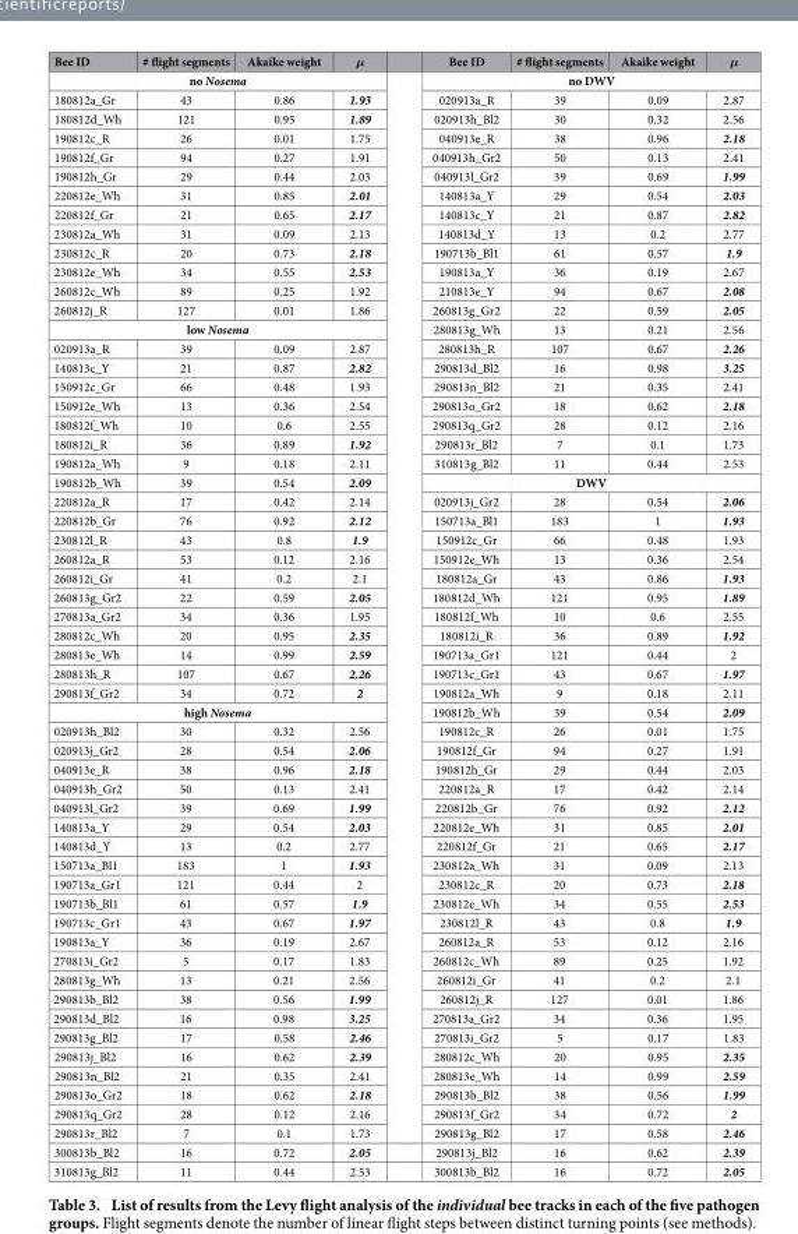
<table><thead><tr><td>Bee ID</td><td># flight segments</td><td>Akaike weight</td><td>μ</td><td>Bee ID</td><td># flight segments</td><td>Akaike weight</td><td>μ</td></tr></thead><tbody><tr><td colspan="4">no Nosema</td><td colspan="4">no DWV</td></tr><tr><td>180812a_Gr</td><td>43</td><td>0.86</td><td>1.93</td><td>020913a_R</td><td>39</td><td>0.09</td><td>2.87</td></tr><tr><td>180812d_Wh</td><td>121</td><td>0.95</td><td>1.89</td><td>020913h_Bl2</td><td>30</td><td>0.32</td><td>2.56</td></tr><tr><td>190812c_R</td><td>26</td><td>0.01</td><td>1.75</td><td>040913e_R</td><td>38</td><td>0.96</td><td>2.18</td></tr><tr><td>190812f_Gr</td><td>94</td><td>0.27</td><td>1.91</td><td>040913h_Gr2</td><td>50</td><td>0.13</td><td>2.41</td></tr><tr><td>190812h_Gr</td><td>29</td><td>0.44</td><td>2.03</td><td>040913l_Gr2</td><td>39</td><td>0.69</td><td>1.99</td></tr><tr><td>220812e_Wh</td><td>31</td><td>0.85</td><td>2.01</td><td>140813a_Y</td><td>29</td><td>0.54</td><td>2.03</td></tr><tr><td>220812f_Gr</td><td>21</td><td>0.65</td><td>2.17</td><td>140813c_Y</td><td>21</td><td>0.87</td><td>2.82</td></tr><tr><td>230812a_Wh</td><td>31</td><td>0.09</td><td>2.13</td><td>140813d_Y</td><td>13</td><td>0.2</td><td>2.77</td></tr><tr><td>230812c_R</td><td>20</td><td>0.73</td><td>2.18</td><td>190713b_Bl1</td><td>61</td><td>0.57</td><td>1.9</td></tr><tr><td>230812e_Wh</td><td>34</td><td>0.55</td><td>2.53</td><td>190813a_Y</td><td>36</td><td>0.19</td><td>2.67</td></tr><tr><td>260812c_Wh</td><td>89</td><td>0.25</td><td>1.92</td><td>210813e_Y</td><td>94</td><td>0.67</td><td>2.08</td></tr><tr><td>260812j_R</td><td>127</td><td>0.01</td><td>1.86</td><td>260813g_Gr2</td><td>22</td><td>0.59</td><td>2.05</td></tr><tr><td colspan="4">low Nosema</td><td>280813g_Wh</td><td>13</td><td>0.21</td><td>2.56</td></tr><tr><td>020913a_R</td><td>39</td><td>0.09</td><td>2.87</td><td>280813h_R</td><td>107</td><td>0.67</td><td>2.26</td></tr><tr><td>140813c_Y</td><td>21</td><td>0.87</td><td>2.82</td><td>290813d_Bl2</td><td>16</td><td>0.98</td><td>3.25</td></tr><tr><td>150912c_Gr</td><td>66</td><td>0.48</td><td>1.93</td><td>290813n_Bl2</td><td>21</td><td>0.35</td><td>2.41</td></tr><tr><td>150912e_Wh</td><td>13</td><td>0.36</td><td>2.54</td><td>290813o_Gr2</td><td>18</td><td>0.62</td><td>2.18</td></tr><tr><td>180812f_Wh</td><td>10</td><td>0.6</td><td>2.55</td><td>290813q_Gr2</td><td>28</td><td>0.12</td><td>2.16</td></tr><tr><td>180812i_R</td><td>36</td><td>0.89</td><td>1.92</td><td>290813r_Bl2</td><td>7</td><td>0.1</td><td>1.73</td></tr><tr><td>190812a_Wh</td><td>9</td><td>0.18</td><td>2.11</td><td>310813g_Bl2</td><td>11</td><td>0.44</td><td>2.53</td></tr><tr><td>190812b_Wh</td><td>39</td><td>0.54</td><td>2.09</td><td colspan="4">DWV</td></tr><tr><td>220812a_R</td><td>17</td><td>0.42</td><td>2.14</td><td>020913j_Gr2</td><td>28</td><td>0.54</td><td>2.06</td></tr><tr><td>220812b_Gr</td><td>76</td><td>0.92</td><td>2.12</td><td>150713a_Bl1</td><td>183</td><td>1</td><td>1.93</td></tr><tr><td>230812l_R</td><td>43</td><td>0.8</td><td>1.9</td><td>150912c_Gr</td><td>66</td><td>0.48</td><td>1.93</td></tr><tr><td>260812a_R</td><td>53</td><td>0.12</td><td>2.16</td><td>150912e_Wh</td><td>13</td><td>0.36</td><td>2.54</td></tr><tr><td>260812i_Gr</td><td>41</td><td>0.2</td><td>2.1</td><td>180812a_Gr</td><td>43</td><td>0.86</td><td>1.93</td></tr><tr><td>260813g_Gr2</td><td>22</td><td>0.59</td><td>2.05</td><td>180812d_Wh</td><td>121</td><td>0.95</td><td>1.89</td></tr><tr><td>270813a_Gr2</td><td>34</td><td>0.36</td><td>1.95</td><td>180812f_Wh</td><td>10</td><td>0.6</td><td>2.55</td></tr><tr><td>280812c_Wh</td><td>20</td><td>0.95</td><td>2.35</td><td>180812i_R</td><td>36</td><td>0.89</td><td>1.92</td></tr><tr><td>280813e_Wh</td><td>14</td><td>0.99</td><td>2.59</td><td>190713a_Gr1</td><td>121</td><td>0.44</td><td>2</td></tr><tr><td>280813h_R</td><td>107</td><td>0.67</td><td>2.26</td><td>190713c_Gr1</td><td>43</td><td>0.67</td><td>1.97</td></tr><tr><td>290813f_Gr2</td><td>34</td><td>0.72</td><td>2</td><td>190812a_Wh</td><td>9</td><td>0.18</td><td>2.11</td></tr><tr><td colspan="4">high Nosema</td><td>190812b_Wh</td><td>39</td><td>0.54</td><td>2.09</td></tr><tr><td>020913h_Bl2</td><td>30</td><td>0.32</td><td>2.56</td><td>190812c_R</td><td>26</td><td>0.01</td><td>1.75</td></tr><tr><td>020913j_Gr2</td><td>28</td><td>0.54</td><td>2.06</td><td>190812f_Gr</td><td>94</td><td>0.27</td><td>1.91</td></tr><tr><td>040913e_R</td><td>38</td><td>0.96</td><td>2.18</td><td>190812h_Gr</td><td>29</td><td>0.44</td><td>2.03</td></tr><tr><td>040913h_Gr2</td><td>50</td><td>0.13</td><td>2.41</td><td>220812a_R</td><td>17</td><td>0.42</td><td>2.14</td></tr><tr><td>040913l_Gr2</td><td>39</td><td>0.69</td><td>1.99</td><td>220812b_Gr</td><td>76</td><td>0.92</td><td>2.12</td></tr><tr><td>140813a_Y</td><td>29</td><td>0.54</td><td>2.03</td><td>220812e_Wh</td><td>31</td><td>0.85</td><td>2.01</td></tr><tr><td>140813d_Y</td><td>13</td><td>0.2</td><td>2.77</td><td>220812f_Gr</td><td>21</td><td>0.65</td><td>2.17</td></tr><tr><td>150713a_Bl1</td><td>183</td><td>1</td><td>1.93</td><td>230812a_Wh</td><td>31</td><td>0.09</td><td>2.13</td></tr><tr><td>190713a_Gr1</td><td>121</td><td>0.44</td><td>2</td><td>230812c_R</td><td>20</td><td>0.73</td><td>2.18</td></tr><tr><td>190713b_Bl1</td><td>61</td><td>0.57</td><td>1.9</td><td>230812e_Wh</td><td>34</td><td>0.55</td><td>2.53</td></tr><tr><td>190713c_Gr1</td><td>43</td><td>0.67</td><td>1.97</td><td>230812l_R</td><td>43</td><td>0.8</td><td>1.9</td></tr><tr><td>190813a_Y</td><td>36</td><td>0.19</td><td>2.67</td><td>260812a_R</td><td>53</td><td>0.12</td><td>2.16</td></tr><tr><td>270813i_Gr2</td><td>5</td><td>0.17</td><td>1.83</td><td>260812c_Wh</td><td>89</td><td>0.25</td><td>1.92</td></tr><tr><td>280813g_Wh</td><td>13</td><td>0.21</td><td>2.56</td><td>260812i_Gr</td><td>41</td><td>0.2</td><td>2.1</td></tr><tr><td>290813b_Bl2</td><td>38</td><td>0.56</td><td>1.99</td><td>260812j_R</td><td>127</td><td>0.01</td><td>1.86</td></tr><tr><td>290813d_Bl2</td><td>16</td><td>0.98</td><td>3.25</td><td>270813a_Gr2</td><td>34</td><td>0.36</td><td>1.95</td></tr><tr><td>290813g_Bl2</td><td>17</td><td>0.58</td><td>2.46</td><td>270813i_Gr2</td><td>5</td><td>0.17</td><td>1.83</td></tr><tr><td>290813j_Bl2</td><td>16</td><td>0.62</td><td>2.39</td><td>280812c_Wh</td><td>20</td><td>0.95</td><td>2.35</td></tr><tr><td>290813n_Bl2</td><td>21</td><td>0.35</td><td>2.41</td><td>280813e_Wh</td><td>14</td><td>0.99</td><td>2.59</td></tr><tr><td>290813o_Gr2</td><td>18</td><td>0.62</td><td>2.18</td><td>290813b_Bl2</td><td>38</td><td>0.56</td><td>1.99</td></tr><tr><td>290813q_Gr2</td><td>28</td><td>0.12</td><td>2.16</td><td>290813f_Gr2</td><td>34</td><td>0.72</td><td>2</td></tr><tr><td>290813r_Bl2</td><td>7</td><td>0.1</td><td>1.73</td><td>290813g_Bl2</td><td>17</td><td>0.58</td><td>2.46</td></tr><tr><td>300813b_Bl2</td><td>16</td><td>0.72</td><td>2.05</td><td>290813j_Bl2</td><td>16</td><td>0.62</td><td>2.39</td></tr><tr><td>310813g_Bl2</td><td>11</td><td>0.44</td><td>2.53</td><td>300813b_Bl2</td><td>16</td><td>0.72</td><td>2.05</td></tr></tbody></table>